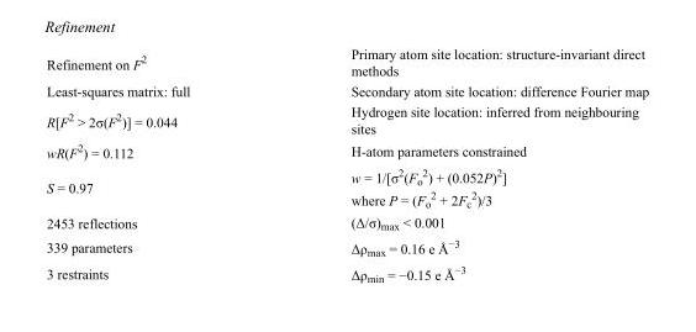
<table><tbody><tr><td>Refinement on F<sup>2</sup></td><td>Primary atom site location: structure-invariant direct methods</td></tr><tr><td>Least-squares matrix: full</td><td>Secondary atom site location: difference Fourier map</td></tr><tr><td>R[F<sup>2</sup> &gt; 2σ(F<sup>2</sup>)] = 0.044</td><td>Hydrogen site location: inferred from neighbouring sites</td></tr><tr><td>wR(F<sup>2</sup>) = 0.112</td><td>H-atom parameters constrained</td></tr><tr><td>S = 0.97</td><td>w = 1/[σ<sup>2</sup>(F<sub>o</sub> <sup>2</sup>) + (0.052P)<sup>2</sup>] where P = (F<sub>o</sub> <sup>2</sup> + 2F<sub>c</sub> <sup>2</sup>)/3</td></tr><tr><td>2453 reflections</td><td>(Δ/σ)<sub>max</sub> &lt; 0.001</td></tr><tr><td>339 parameters</td><td>Δρ<sub>max</sub> = 0.16 e Å<sup>−3</sup></td></tr><tr><td>3 restraints</td><td>Δρ<sub>min</sub> = −0.15 e Å<sup>−3</sup></td></tr></tbody></table>